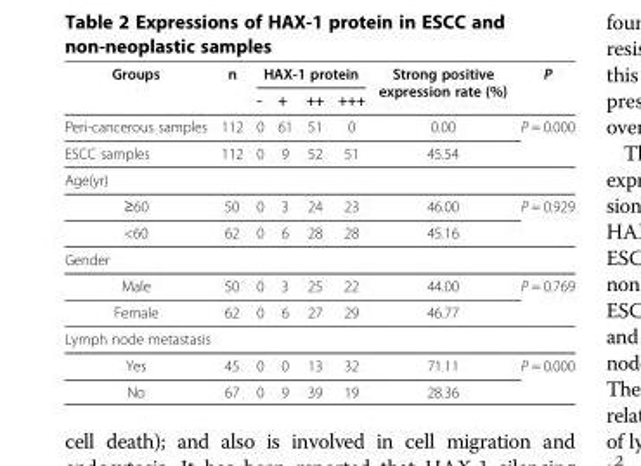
<table><thead><tr><td rowspan="2">Groups</td><td rowspan="2">n</td><td colspan="4">HAX-1 protein</td><td rowspan="2">Strong positive expression rate (%)</td><td rowspan="2">P</td></tr><tr><td>-</td><td>+</td><td>++</td><td>+++</td></tr></thead><tbody><tr><td>Peri-cancerous samples</td><td>112</td><td>0</td><td>61</td><td>51</td><td>0</td><td>0.00</td><td>P = 0.000</td></tr><tr><td>ESCC samples</td><td>112</td><td>0</td><td>9</td><td>52</td><td>51</td><td>45.54</td><td></td></tr><tr><td colspan="8">Age(yr)</td></tr><tr><td>≥60</td><td>50</td><td>0</td><td>3</td><td>24</td><td>23</td><td>46.00</td><td>P = 0.929</td></tr><tr><td>&lt;60</td><td>62</td><td>0</td><td>6</td><td>28</td><td>28</td><td>45.16</td><td></td></tr><tr><td colspan="8">Gender</td></tr><tr><td>Male</td><td>50</td><td>0</td><td>3</td><td>25</td><td>22</td><td>44.00</td><td>P = 0.769</td></tr><tr><td>Female</td><td>62</td><td>0</td><td>6</td><td>27</td><td>29</td><td>46.77</td><td></td></tr><tr><td colspan="8">Lymph node metastasis</td></tr><tr><td>Yes</td><td>45</td><td>0</td><td>0</td><td>13</td><td>32</td><td>71.11</td><td>P = 0.000</td></tr><tr><td>No</td><td>67</td><td>0</td><td>9</td><td>39</td><td>19</td><td>28.36</td><td></td></tr></tbody></table>